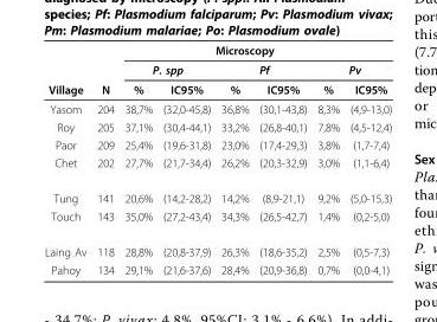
<table><thead><tr><td rowspan="3">Village</td><td colspan="7">Microscopy</td></tr><tr><td rowspan="2">N</td><td colspan="2">P. spp</td><td colspan="2">Pf</td><td colspan="2">Pv</td></tr><tr><td>%</td><td>IC95%</td><td>%</td><td>IC95%</td><td>%</td><td>IC95%</td></tr></thead><tbody><tr><td>Yasom</td><td>204</td><td>38,7%</td><td>(32,0-45,8)</td><td>36,8%</td><td>(30,1-43,8)</td><td>8,3%</td><td>(4,9-13,0)</td></tr><tr><td>Roy</td><td>205</td><td>37,1%</td><td>(30,4-44,1)</td><td>33,2%</td><td>(26,8-40,1)</td><td>7,8%</td><td>(4,5-12,4)</td></tr><tr><td>Paor</td><td>209</td><td>25,4%</td><td>(19,6-31,8)</td><td>23,0%</td><td>(17,4-29,3)</td><td>3,8%</td><td>(1,7-7,4)</td></tr><tr><td>Chet</td><td>202</td><td>27,7%</td><td>(21,7-34,4)</td><td>26,2%</td><td>(20,3-32,9)</td><td>3,0%</td><td>(1,1-6,4)</td></tr><tr><td>Tung</td><td>141</td><td>20,6%</td><td>(14,2-28,2)</td><td>14,2%</td><td>(8,9-21,1)</td><td>9,2%</td><td>(5,0-15,3)</td></tr><tr><td>Touch</td><td>143</td><td>35,0%</td><td>(27,2-43,4)</td><td>34,3%</td><td>(26,5-42,7)</td><td>1,4%</td><td>(0,2-5,0)</td></tr><tr><td>Laing Av</td><td>118</td><td>28,8%</td><td>(20,8-37,9)</td><td>26,3%</td><td>(18,6-35,2)</td><td>2,5%</td><td>(0,5-7,3)</td></tr><tr><td>Pahoy</td><td>134</td><td>29,1%</td><td>(21,6-37,6)</td><td>28,4%</td><td>(20,9-36,8)</td><td>0,7%</td><td>(0,0-4,1)</td></tr></tbody></table>